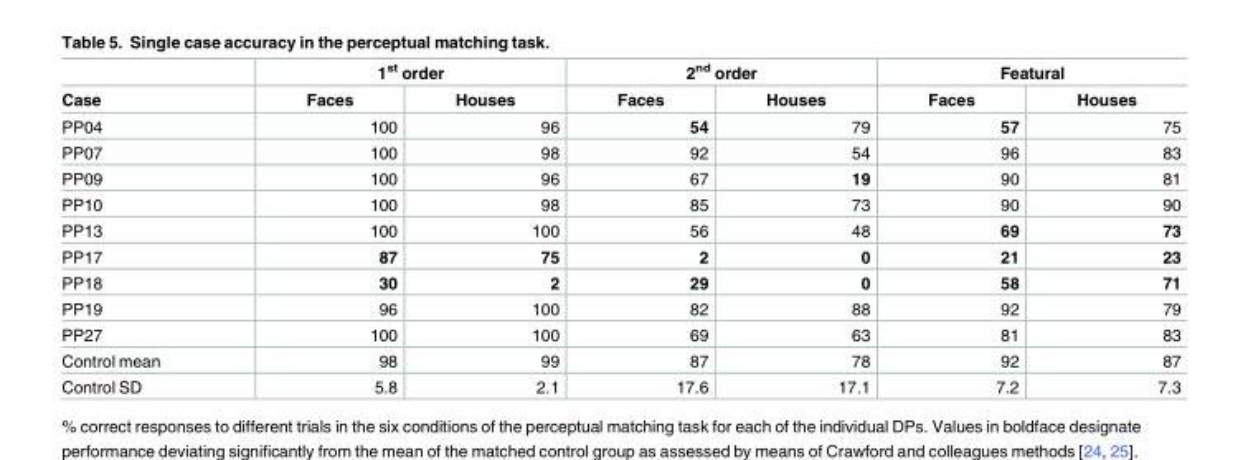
<table><thead><tr><td rowspan="2">Case</td><td colspan="2">1<sup>st</sup> order</td><td colspan="2">2<sup>nd</sup> order</td><td colspan="2">Featural</td></tr><tr><td>Faces</td><td>Houses</td><td>Faces</td><td>Houses</td><td>Faces</td><td>Houses</td></tr></thead><tbody><tr><td>PP04</td><td>100</td><td>96</td><td>54</td><td>79</td><td>57</td><td>75</td></tr><tr><td>PP07</td><td>100</td><td>98</td><td>92</td><td>54</td><td>96</td><td>83</td></tr><tr><td>PP09</td><td>100</td><td>96</td><td>67</td><td>19</td><td>90</td><td>81</td></tr><tr><td>PP10</td><td>100</td><td>98</td><td>85</td><td>73</td><td>90</td><td>90</td></tr><tr><td>PP13</td><td>100</td><td>100</td><td>56</td><td>48</td><td>69</td><td>73</td></tr><tr><td>PP17</td><td>87</td><td>75</td><td>2</td><td>0</td><td>21</td><td>23</td></tr><tr><td>PP18</td><td>30</td><td>2</td><td>29</td><td>0</td><td>58</td><td>71</td></tr><tr><td>PP19</td><td>96</td><td>100</td><td>82</td><td>88</td><td>92</td><td>79</td></tr><tr><td>PP27</td><td>100</td><td>100</td><td>69</td><td>63</td><td>81</td><td>83</td></tr><tr><td>Control mean</td><td>98</td><td>99</td><td>87</td><td>78</td><td>92</td><td>87</td></tr><tr><td>Control SD</td><td>5.8</td><td>2.1</td><td>17.6</td><td>17.1</td><td>7.2</td><td>7.3</td></tr></tbody></table>